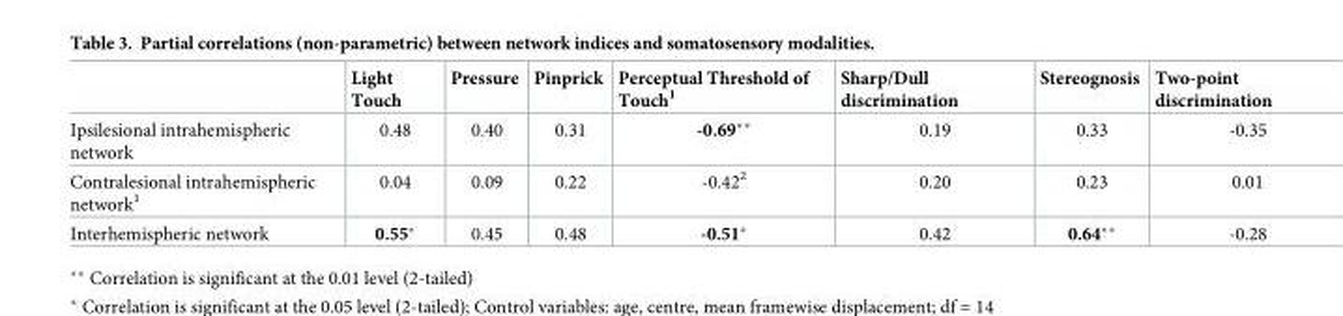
<table><thead><tr><td></td><td>Light Touch</td><td>Pressure</td><td>Pinprick</td><td>Perceptual Threshold of Touch<sup>1</sup></td><td>Sharp/Dull discrimination</td><td>Stereognosis</td><td>Two-point discrimination</td></tr></thead><tbody><tr><td>Ipsilesional intrahemispheric network</td><td>0.48</td><td>0.40</td><td>0.31</td><td>-0.69**</td><td>0.19</td><td>0.33</td><td>-0.35</td></tr><tr><td>Contralesional intrahemispheric network<sup>1</sup></td><td>0.04</td><td>0.09</td><td>0.22</td><td>-0.42<sup>2</sup></td><td>0.20</td><td>0.23</td><td>0.01</td></tr><tr><td>Interhemispheric network</td><td>0.55*</td><td>0.45</td><td>0.48</td><td>-0.51*</td><td>0.42</td><td>0.64**</td><td>-0.28</td></tr></tbody></table>